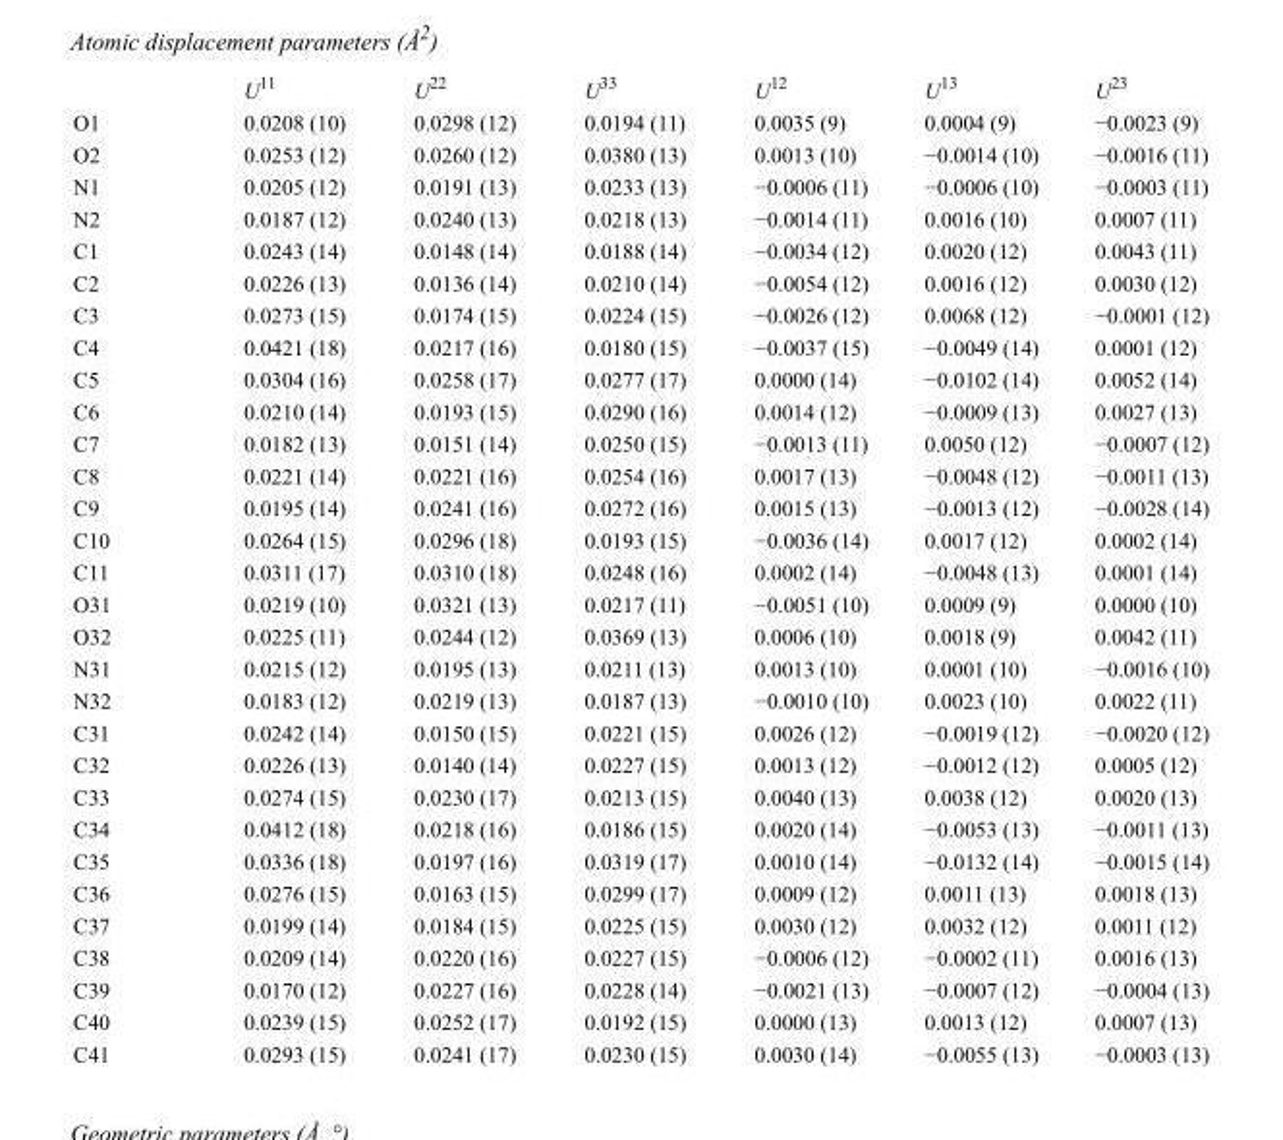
<table><thead><tr><td></td><td>U<sup>11</sup></td><td>U<sup>22</sup></td><td>U<sup>33</sup></td><td>U<sup>12</sup></td><td>U<sup>13</sup></td><td>U<sup>23</sup></td></tr></thead><tbody><tr><td>O1</td><td>0.0208 (10)</td><td>0.0298 (12)</td><td>0.0194 (11)</td><td>0.0035 (9)</td><td>0.0004 (9)</td><td>−0.0023 (9)</td></tr><tr><td>O2</td><td>0.0253 (12)</td><td>0.0260 (12)</td><td>0.0380 (13)</td><td>0.0013 (10)</td><td>−0.0014 (10)</td><td>−0.0016 (11)</td></tr><tr><td>N1</td><td>0.0205 (12)</td><td>0.0191 (13)</td><td>0.0233 (13)</td><td>−0.0006 (11)</td><td>−0.0006 (10)</td><td>−0.0003 (11)</td></tr><tr><td>N2</td><td>0.0187 (12)</td><td>0.0240 (13)</td><td>0.0218 (13)</td><td>−0.0014 (11)</td><td>0.0016 (10)</td><td>0.0007 (11)</td></tr><tr><td>C1</td><td>0.0243 (14)</td><td>0.0148 (14)</td><td>0.0188 (14)</td><td>−0.0034 (12)</td><td>0.0020 (12)</td><td>0.0043 (11)</td></tr><tr><td>C2</td><td>0.0226 (13)</td><td>0.0136 (14)</td><td>0.0210 (14)</td><td>−0.0054 (12)</td><td>0.0016 (12)</td><td>0.0030 (12)</td></tr><tr><td>C3</td><td>0.0273 (15)</td><td>0.0174 (15)</td><td>0.0224 (15)</td><td>−0.0026 (12)</td><td>0.0068 (12)</td><td>−0.0001 (12)</td></tr><tr><td>C4</td><td>0.0421 (18)</td><td>0.0217 (16)</td><td>0.0180 (15)</td><td>−0.0037 (15)</td><td>−0.0049 (14)</td><td>0.0001 (12)</td></tr><tr><td>C5</td><td>0.0304 (16)</td><td>0.0258 (17)</td><td>0.0277 (17)</td><td>0.0000 (14)</td><td>−0.0102 (14)</td><td>0.0052 (14)</td></tr><tr><td>C6</td><td>0.0210 (14)</td><td>0.0193 (15)</td><td>0.0290 (16)</td><td>0.0014 (12)</td><td>−0.0009 (13)</td><td>0.0027 (13)</td></tr><tr><td>C7</td><td>0.0182 (13)</td><td>0.0151 (14)</td><td>0.0250 (15)</td><td>−0.0013 (11)</td><td>0.0050 (12)</td><td>−0.0007 (12)</td></tr><tr><td>C8</td><td>0.0221 (14)</td><td>0.0221 (16)</td><td>0.0254 (16)</td><td>0.0017 (13)</td><td>−0.0048 (12)</td><td>−0.0011 (13)</td></tr><tr><td>C9</td><td>0.0195 (14)</td><td>0.0241 (16)</td><td>0.0272 (16)</td><td>0.0015 (13)</td><td>−0.0013 (12)</td><td>−0.0028 (14)</td></tr><tr><td>C10</td><td>0.0264 (15)</td><td>0.0296 (18)</td><td>0.0193 (15)</td><td>−0.0036 (14)</td><td>0.0017 (12)</td><td>0.0002 (14)</td></tr><tr><td>C11</td><td>0.0311 (17)</td><td>0.0310 (18)</td><td>0.0248 (16)</td><td>0.0002 (14)</td><td>−0.0048 (13)</td><td>0.0001 (14)</td></tr><tr><td>O31</td><td>0.0219 (10)</td><td>0.0321 (13)</td><td>0.0217 (11)</td><td>−0.0051 (10)</td><td>0.0009 (9)</td><td>0.0000 (10)</td></tr><tr><td>O32</td><td>0.0225 (11)</td><td>0.0244 (12)</td><td>0.0369 (13)</td><td>0.0006 (10)</td><td>0.0018 (9)</td><td>0.0042 (11)</td></tr><tr><td>N31</td><td>0.0215 (12)</td><td>0.0195 (13)</td><td>0.0211 (13)</td><td>0.0013 (10)</td><td>0.0001 (10)</td><td>−0.0016 (10)</td></tr><tr><td>N32</td><td>0.0183 (12)</td><td>0.0219 (13)</td><td>0.0187 (13)</td><td>−0.0010 (10)</td><td>0.0023 (10)</td><td>0.0022 (11)</td></tr><tr><td>C31</td><td>0.0242 (14)</td><td>0.0150 (15)</td><td>0.0221 (15)</td><td>0.0026 (12)</td><td>−0.0019 (12)</td><td>−0.0020 (12)</td></tr><tr><td>C32</td><td>0.0226 (13)</td><td>0.0140 (14)</td><td>0.0227 (15)</td><td>0.0013 (12)</td><td>−0.0012 (12)</td><td>0.0005 (12)</td></tr><tr><td>C33</td><td>0.0274 (15)</td><td>0.0230 (17)</td><td>0.0213 (15)</td><td>0.0040 (13)</td><td>0.0038 (12)</td><td>0.0020 (13)</td></tr><tr><td>C34</td><td>0.0412 (18)</td><td>0.0218 (16)</td><td>0.0186 (15)</td><td>0.0020 (14)</td><td>−0.0053 (13)</td><td>−0.0011 (13)</td></tr><tr><td>C35</td><td>0.0336 (18)</td><td>0.0197 (16)</td><td>0.0319 (17)</td><td>0.0010 (14)</td><td>−0.0132 (14)</td><td>−0.0015 (14)</td></tr><tr><td>C36</td><td>0.0276 (15)</td><td>0.0163 (15)</td><td>0.0299 (17)</td><td>0.0009 (12)</td><td>0.0011 (13)</td><td>0.0018 (13)</td></tr><tr><td>C37</td><td>0.0199 (14)</td><td>0.0184 (15)</td><td>0.0225 (15)</td><td>0.0030 (12)</td><td>0.0032 (12)</td><td>0.0011 (12)</td></tr><tr><td>C38</td><td>0.0209 (14)</td><td>0.0220 (16)</td><td>0.0227 (15)</td><td>−0.0006 (12)</td><td>−0.0002 (11)</td><td>0.0016 (13)</td></tr><tr><td>C39</td><td>0.0170 (12)</td><td>0.0227 (16)</td><td>0.0228 (14)</td><td>−0.0021 (13)</td><td>−0.0007 (12)</td><td>−0.0004 (13)</td></tr><tr><td>C40</td><td>0.0239 (15)</td><td>0.0252 (17)</td><td>0.0192 (15)</td><td>0.0000 (13)</td><td>0.0013 (12)</td><td>0.0007 (13)</td></tr><tr><td>C41</td><td>0.0293 (15)</td><td>0.0241 (17)</td><td>0.0230 (15)</td><td>0.0030 (14)</td><td>−0.0055 (13)</td><td>−0.0003 (13)</td></tr></tbody></table>